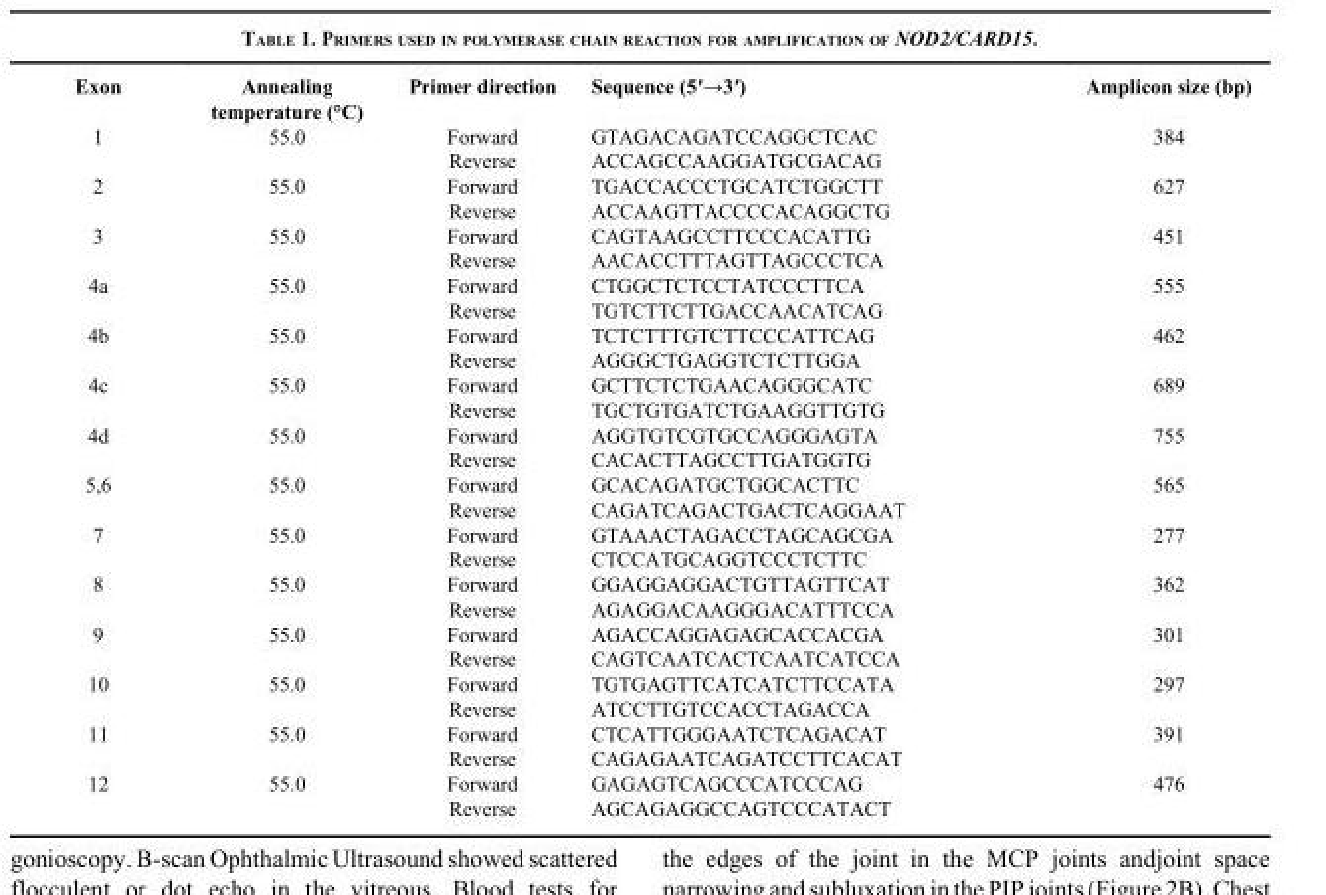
<table><thead><tr><td>Exon</td><td>Annealing temperature (°C)</td><td>Primer direction</td><td>Sequence (5′→3′)</td><td>Amplicon size (bp)</td></tr></thead><tbody><tr><td rowspan="2">1</td><td>55.0</td><td>Forward</td><td>GTAGACAGATCCAGGCTCAC</td><td>384</td></tr><tr><td></td><td>Reverse</td><td>ACCAGCCAAGGATGCGACAG</td><td></td></tr><tr><td rowspan="2">2</td><td>55.0</td><td>Forward</td><td>TGACCACCCTGCATCTGGCTT</td><td>627</td></tr><tr><td></td><td>Reverse</td><td>ACCAAGTTACCCCACAGGCTG</td><td></td></tr><tr><td rowspan="2">3</td><td>55.0</td><td>Forward</td><td>CAGTAAGCCTTCCCACATTG</td><td>451</td></tr><tr><td></td><td>Reverse</td><td>AACACCTTTAGTTAGCCCTCA</td><td></td></tr><tr><td rowspan="2">4a</td><td>55.0</td><td>Forward</td><td>CTGGCTCTCCTATCCCTTCA</td><td>555</td></tr><tr><td></td><td>Reverse</td><td>TGTCTTCTTGACCAACATCAG</td><td></td></tr><tr><td rowspan="2">4b</td><td>55.0</td><td>Forward</td><td>TCTCTTTGTCTTCCCATTCAG</td><td>462</td></tr><tr><td></td><td>Reverse</td><td>AGGGCTGAGGTCTCTTGGA</td><td></td></tr><tr><td rowspan="2">4c</td><td>55.0</td><td>Forward</td><td>GCTTCTCTGAACAGGGCATC</td><td>689</td></tr><tr><td></td><td>Reverse</td><td>TGCTGTGATCTGAAGGTTGTG</td><td></td></tr><tr><td rowspan="2">4d</td><td>55.0</td><td>Forward</td><td>AGGTGTCGTGCCAGGGAGTA</td><td>755</td></tr><tr><td></td><td>Reverse</td><td>CACACTTAGCCTTGATGGTG</td><td></td></tr><tr><td rowspan="2">5,6</td><td>55.0</td><td>Forward</td><td>GCACAGATGCTGGCACTTC</td><td>565</td></tr><tr><td></td><td>Reverse</td><td>CAGATCAGACTGACTCAGGAAT</td><td></td></tr><tr><td rowspan="2">7</td><td>55.0</td><td>Forward</td><td>GTAAACTAGACCTAGCAGCGA</td><td>277</td></tr><tr><td></td><td>Reverse</td><td>CTCCATGCAGGTCCCTCTTC</td><td></td></tr><tr><td rowspan="2">8</td><td>55.0</td><td>Forward</td><td>GGAGGAGGACTGTTAGTTCAT</td><td>362</td></tr><tr><td></td><td>Reverse</td><td>AGAGGACAAGGGACATTTCCA</td><td></td></tr><tr><td rowspan="2">9</td><td>55.0</td><td>Forward</td><td>AGACCAGGAGAGCACCACGA</td><td>301</td></tr><tr><td></td><td>Reverse</td><td>CAGTCAATCACTCAATCATCCA</td><td></td></tr><tr><td rowspan="2">10</td><td>55.0</td><td>Forward</td><td>TGTGAGTTCATCATCTTCCATA</td><td>297</td></tr><tr><td></td><td>Reverse</td><td>ATCCTTGTCCACCTAGACCA</td><td></td></tr><tr><td rowspan="2">11</td><td>55.0</td><td>Forward</td><td>CTCATTGGGAATCTCAGACAT</td><td>391</td></tr><tr><td></td><td>Reverse</td><td>CAGAGAATCAGATCCTTCACAT</td><td></td></tr><tr><td rowspan="2">12</td><td>55.0</td><td>Forward</td><td>GAGAGTCAGCCCATCCCAG</td><td>476</td></tr><tr><td></td><td>Reverse</td><td>AGCAGAGGCCAGTCCCATACT</td><td></td></tr></tbody></table>